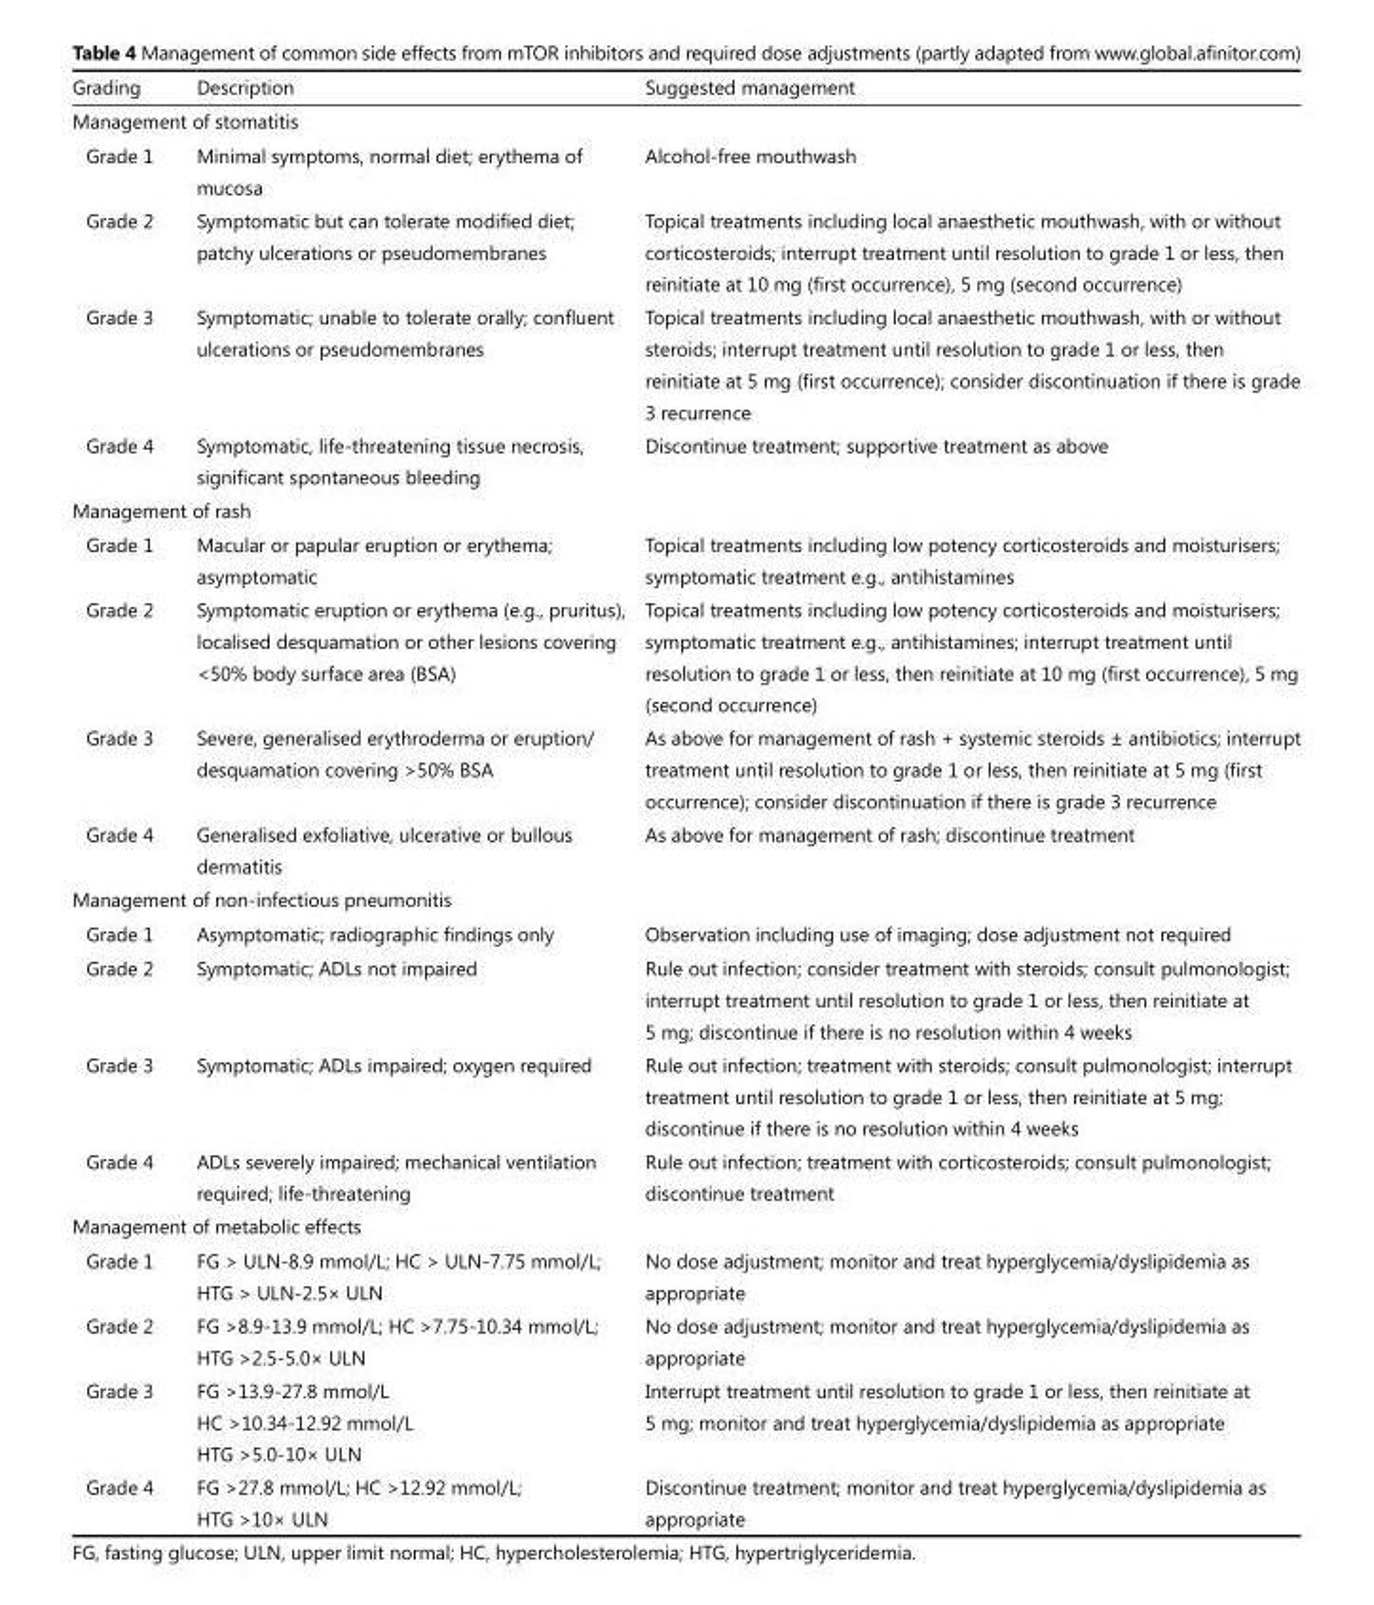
<table><thead><tr><td>Grading</td><td>Description</td><td>Suggested management</td></tr></thead><tbody><tr><td colspan="3">Management of stomatitis</td></tr><tr><td>Grade 1</td><td>Minimal symptoms, normal diet; erythema of mucosa</td><td>Alcohol-free mouthwash</td></tr><tr><td>Grade 2</td><td>Symptomatic but can tolerate modified diet; patchy ulcerations or pseudomembranes</td><td>Topical treatments including local anaesthetic mouthwash, with or without corticosteroids; interrupt treatment until resolution to grade 1 or less, then reinitiate at 10 mg (first occurrence), 5 mg (second occurrence)</td></tr><tr><td>Grade 3</td><td>Symptomatic; unable to tolerate orally; confluent ulcerations or pseudomembranes</td><td>Topical treatments including local anaesthetic mouthwash, with or without steroids; interrupt treatment until resolution to grade 1 or less, then reinitiate at 5 mg (first occurrence); consider discontinuation if there is grade 3 recurrence</td></tr><tr><td>Grade 4</td><td>Symptomatic, life-threatening tissue necrosis, significant spontaneous bleeding</td><td>Discontinue treatment; supportive treatment as above</td></tr><tr><td colspan="3">Management of rash</td></tr><tr><td>Grade 1</td><td>Macular or papular eruption or erythema; asymptomatic</td><td>Topical treatments including low potency corticosteroids and moisturisers; symptomatic treatment e.g., antihistamines</td></tr><tr><td>Grade 2</td><td>Symptomatic eruption or erythema (e.g., pruritus), localised desquamation or other lesions covering &lt;50% body surface area (BSA)</td><td>Topical treatments including low potency corticosteroids and moisturisers; symptomatic treatment e.g., antihistamines; interrupt treatment until resolution to grade 1 or less, then reinitiate at 10 mg (first occurrence), 5 mg (second occurrence)</td></tr><tr><td>Grade 3</td><td>Severe, generalised erythroderma or eruption/ desquamation covering &gt;50% BSA</td><td>As above for management of rash + systemic steroids ± antibiotics; interrupt treatment until resolution to grade 1 or less, then reinitiate at 5 mg (first occurrence); consider discontinuation if there is grade 3 recurrence</td></tr><tr><td>Grade 4</td><td>Generalised exfoliative, ulcerative or bullous dermatitis</td><td>As above for management of rash; discontinue treatment</td></tr><tr><td colspan="3">Management of non-infectious pneumonitis</td></tr><tr><td>Grade 1</td><td>Asymptomatic; radiographic findings only</td><td>Observation including use of imaging; dose adjustment not required</td></tr><tr><td>Grade 2</td><td>Symptomatic; ADLs not impaired</td><td>Rule out infection; consider treatment with steroids; consult pulmonologist; interrupt treatment until resolution to grade 1 or less, then reinitiate at 5 mg; discontinue if there is no resolution within 4 weeks</td></tr><tr><td>Grade 3</td><td>Symptomatic; ADLs impaired; oxygen required</td><td>Rule out infection; treatment with steroids; consult pulmonologist; interrupt treatment until resolution to grade 1 or less, then reinitiate at 5 mg; discontinue if there is no resolution within 4 weeks</td></tr><tr><td>Grade 4</td><td>ADLs severely impaired; mechanical ventilation required; life-threatening</td><td>Rule out infection; treatment with corticosteroids; consult pulmonologist; discontinue treatment</td></tr><tr><td colspan="3">Management of metabolic effects</td></tr><tr><td>Grade 1</td><td>FG &gt; ULN-8.9 mmol/L; HC &gt; ULN-7.75 mmol/L; HTG &gt; ULN-2.5× ULN</td><td>No dose adjustment; monitor and treat hyperglycemia/dyslipidemia as appropriate</td></tr><tr><td>Grade 2</td><td>FG &gt;8.9-13.9 mmol/L; HC &gt;7.75-10.34 mmol/L; HTG &gt;2.5-5.0× ULN</td><td>No dose adjustment; monitor and treat hyperglycemia/dyslipidemia as appropriate</td></tr><tr><td>Grade 3</td><td>FG &gt;13.9-27.8 mmol/L HC &gt;10.34-12.92 mmol/L HTG &gt;5.0-10× ULN</td><td>Interrupt treatment until resolution to grade 1 or less, then reinitiate at 5 mg; monitor and treat hyperglycemia/dyslipidemia as appropriate</td></tr><tr><td>Grade 4</td><td>FG &gt;27.8 mmol/L; HC &gt;12.92 mmol/L; HTG &gt;10× ULN</td><td>Discontinue treatment; monitor and treat hyperglycemia/dyslipidemia as appropriate</td></tr></tbody></table>